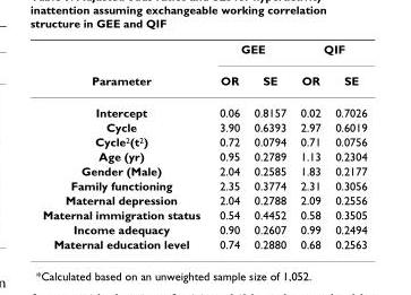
<table><thead><tr><td rowspan="2">Parameter</td><td colspan="2">GEE</td><td colspan="2">QIF</td></tr><tr><td>OR</td><td>SE</td><td>OR</td><td>SE</td></tr></thead><tbody><tr><td>Intercept</td><td>0.06</td><td>0.8157</td><td>0.02</td><td>0.7026</td></tr><tr><td>Cycle</td><td>3.90</td><td>0.6393</td><td>2.97</td><td>0.6019</td></tr><tr><td>Cycle<sup>2</sup>(t<sup>2</sup>)</td><td>0.72</td><td>0.0794</td><td>0.71</td><td>0.0756</td></tr><tr><td>Age (yr)</td><td>0.95</td><td>0.2789</td><td>1.13</td><td>0.2304</td></tr><tr><td>Gender (Male)</td><td>2.04</td><td>0.2585</td><td>1.83</td><td>0.2177</td></tr><tr><td>Family functioning</td><td>2.35</td><td>0.3774</td><td>2.31</td><td>0.3056</td></tr><tr><td>Maternal depression</td><td>2.04</td><td>0.2788</td><td>2.09</td><td>0.2556</td></tr><tr><td>Maternal immigration status</td><td>0.54</td><td>0.4452</td><td>0.58</td><td>0.3505</td></tr><tr><td>Income adequacy</td><td>0.90</td><td>0.2607</td><td>0.99</td><td>0.2494</td></tr><tr><td>Maternal education level</td><td>0.74</td><td>0.2880</td><td>0.68</td><td>0.2563</td></tr></tbody></table>